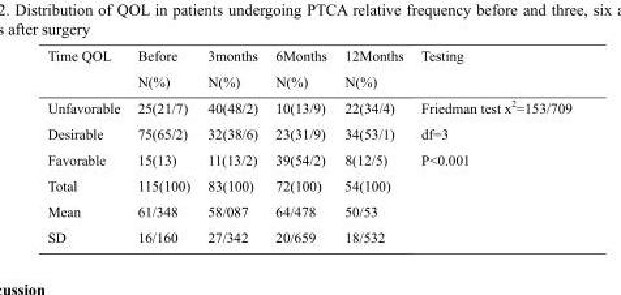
<table><thead><tr><td rowspan="2">Time QOL</td><td rowspan="2">Before N(%)</td><td rowspan="2">3months N(%)</td><td rowspan="2">6Months N(%)</td><td rowspan="2">12Months N(%)</td><td rowspan="2">Testing</td></tr><tr></tr></thead><tbody><tr><td>Unfavorable</td><td>25(21/7)</td><td>40(48/2)</td><td>10(13/9)</td><td>22(34/4)</td><td rowspan="6">Friedman test x<sup>2</sup>=153/709 df=3 P&lt;0.001</td></tr><tr><td>Desirable</td><td>75(65/2)</td><td>32(38/6)</td><td>23(31/9)</td><td>34(53/1)</td></tr><tr><td>Favorable</td><td>15(13)</td><td>11(13/2)</td><td>39(54/2)</td><td>8(12/5)</td></tr><tr><td>Total</td><td>115(100)</td><td>83(100)</td><td>72(100)</td><td>54(100)</td></tr><tr><td>Mean</td><td>61/348</td><td>58/087</td><td>64/478</td><td>50/53</td></tr><tr><td>SD</td><td>16/160</td><td>27/342</td><td>20/659</td><td>18/532</td></tr></tbody></table>